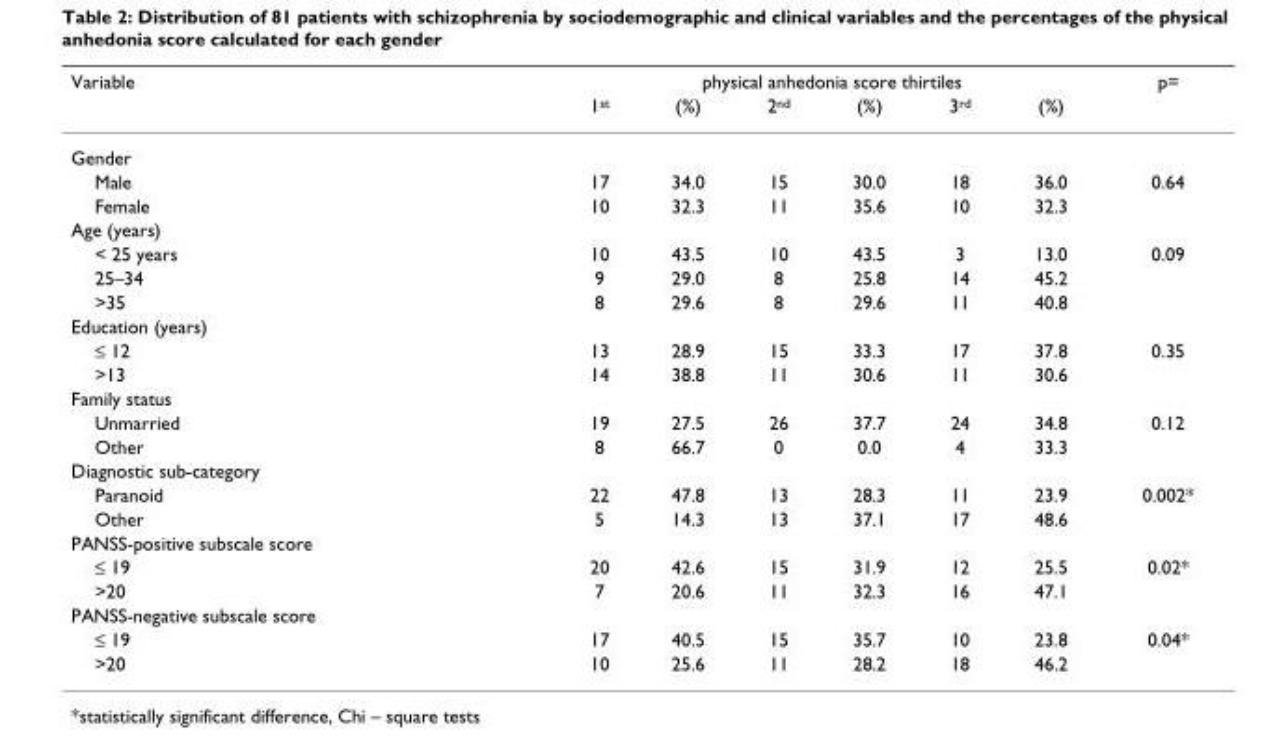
<table><thead><tr><td rowspan="2">Variable</td><td colspan="6">physical anhedonia score thirtiles</td><td rowspan="2">p=</td></tr><tr><td>1<sup>st</sup></td><td>(%)</td><td>2<sup>nd</sup></td><td>(%)</td><td>3<sup>rd</sup></td><td>(%)</td></tr></thead><tbody><tr><td colspan="8">Gender</td></tr><tr><td>Male</td><td>17</td><td>34.0</td><td>15</td><td>30.0</td><td>18</td><td>36.0</td><td>0.64</td></tr><tr><td>Female</td><td>10</td><td>32.3</td><td>11</td><td>35.6</td><td>10</td><td>32.3</td><td></td></tr><tr><td colspan="8">Age (years)</td></tr><tr><td>&lt; 25 years</td><td>10</td><td>43.5</td><td>10</td><td>43.5</td><td>3</td><td>13.0</td><td>0.09</td></tr><tr><td>25–34</td><td>9</td><td>29.0</td><td>8</td><td>25.8</td><td>14</td><td>45.2</td><td></td></tr><tr><td>&gt;35</td><td>8</td><td>29.6</td><td>8</td><td>29.6</td><td>11</td><td>40.8</td><td></td></tr><tr><td colspan="8">Education (years)</td></tr><tr><td>≤ 12</td><td>13</td><td>28.9</td><td>15</td><td>33.3</td><td>17</td><td>37.8</td><td>0.35</td></tr><tr><td>&gt;13</td><td>14</td><td>38.8</td><td>11</td><td>30.6</td><td>11</td><td>30.6</td><td></td></tr><tr><td colspan="8">Family status</td></tr><tr><td>Unmarried</td><td>19</td><td>27.5</td><td>26</td><td>37.7</td><td>24</td><td>34.8</td><td>0.12</td></tr><tr><td>Other</td><td>8</td><td>66.7</td><td>0</td><td>0.0</td><td>4</td><td>33.3</td><td></td></tr><tr><td colspan="8">Diagnostic sub-category</td></tr><tr><td>Paranoid</td><td>22</td><td>47.8</td><td>13</td><td>28.3</td><td>11</td><td>23.9</td><td>0.002*</td></tr><tr><td>Other</td><td>5</td><td>14.3</td><td>13</td><td>37.1</td><td>17</td><td>48.6</td><td></td></tr><tr><td colspan="8">PANSS-positive subscale score</td></tr><tr><td>≤ 19</td><td>20</td><td>42.6</td><td>15</td><td>31.9</td><td>12</td><td>25.5</td><td>0.02*</td></tr><tr><td>&gt;20</td><td>7</td><td>20.6</td><td>11</td><td>32.3</td><td>16</td><td>47.1</td><td></td></tr><tr><td colspan="8">PANSS-negative subscale score</td></tr><tr><td>≤ 19</td><td>17</td><td>40.5</td><td>15</td><td>35.7</td><td>10</td><td>23.8</td><td>0.04*</td></tr><tr><td>&gt;20</td><td>10</td><td>25.6</td><td>11</td><td>28.2</td><td>18</td><td>46.2</td><td></td></tr></tbody></table>